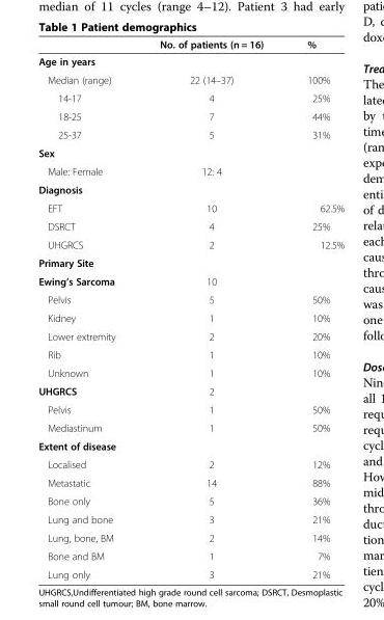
<table><thead><tr><td></td><td>No. of patients (n = 16)</td><td>%</td></tr></thead><tbody><tr><td colspan="3">Age in years</td></tr><tr><td>Median (range)</td><td>22 (14–37)</td><td>100%</td></tr><tr><td>14-17</td><td>4</td><td>25%</td></tr><tr><td>18-25</td><td>7</td><td>44%</td></tr><tr><td>25-37</td><td>5</td><td>31%</td></tr><tr><td colspan="3">Sex</td></tr><tr><td>Male: Female</td><td>12: 4</td><td></td></tr><tr><td colspan="3">Diagnosis</td></tr><tr><td>EFT</td><td>10</td><td>62.5%</td></tr><tr><td>DSRCT</td><td>4</td><td>25%</td></tr><tr><td>UHGRCS</td><td>2</td><td>12.5%</td></tr><tr><td colspan="3">Primary Site</td></tr><tr><td>Ewing’s Sarcoma</td><td>10</td><td></td></tr><tr><td>Pelvis</td><td>5</td><td>50%</td></tr><tr><td>Kidney</td><td>1</td><td>10%</td></tr><tr><td>Lower extremity</td><td>2</td><td>20%</td></tr><tr><td>Rib</td><td>1</td><td>10%</td></tr><tr><td>Unknown</td><td>1</td><td>10%</td></tr><tr><td>UHGRCS</td><td>2</td><td></td></tr><tr><td>Pelvis</td><td>1</td><td>50%</td></tr><tr><td>Mediastinum</td><td>1</td><td>50%</td></tr><tr><td colspan="3">Extent of disease</td></tr><tr><td>Localised</td><td>2</td><td>12%</td></tr><tr><td>Metastatic</td><td>14</td><td>88%</td></tr><tr><td>Bone only</td><td>5</td><td>36%</td></tr><tr><td>Lung and bone</td><td>3</td><td>21%</td></tr><tr><td>Lung, bone, BM</td><td>2</td><td>14%</td></tr><tr><td>Bone and BM</td><td>1</td><td>7%</td></tr><tr><td>Lung only</td><td>3</td><td>21%</td></tr></tbody></table>